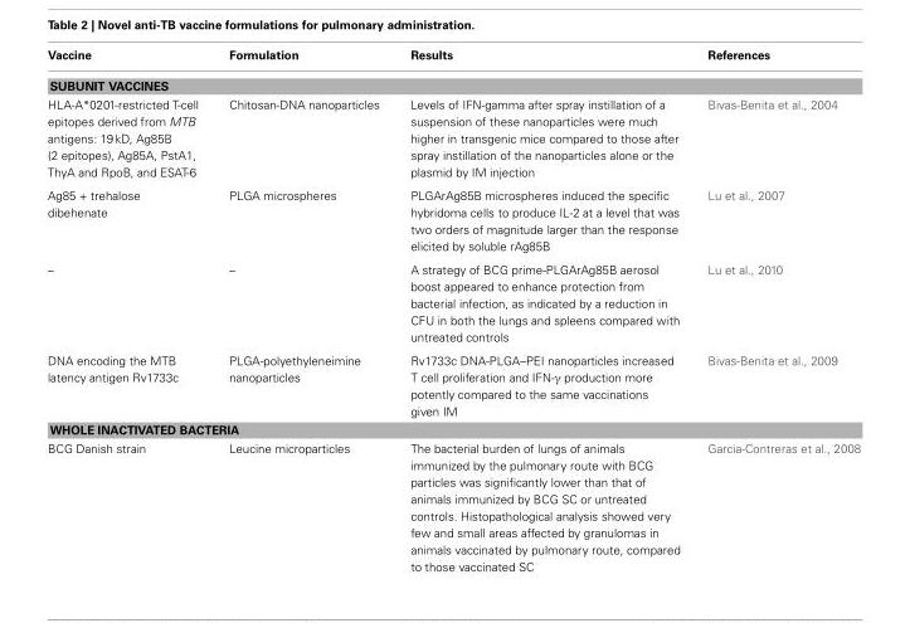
<table><thead><tr><td>Vaccine</td><td>Formulation</td><td>Results</td><td>References</td></tr></thead><tbody><tr><td colspan="4">SUBUNIT VACCINES</td></tr><tr><td>HLA-A*0201-restricted T-cell epitopes derived from MTB antigens: 19 kD, Ag85B (2 epitopes), Ag85A, PstA1, ThyA and RpoB, and ESAT-6</td><td>Chitosan-DNA nanoparticles</td><td>Levels of IFN-gamma after spray instillation of a suspension of these nanoparticles were much higher in transgenic mice compared to those after spray instillation of the nanoparticles alone or the plasmid by IM injection</td><td>Bivas-Benita et al., 2004</td></tr><tr><td>Ag85 + trehalose dibehenate</td><td>PLGA microspheres</td><td>PLGArAg85B microspheres induced the specific hybridoma cells to produce IL-2 at a level that was two orders of magnitude larger than the response elicited by soluble rAg85B</td><td>Lu et al., 2007</td></tr><tr><td>–</td><td>–</td><td>A strategy of BCG prime-PLGArAg85B aerosol boost appeared to enhance protection from bacterial infection, as indicated by a reduction in CFU in both the lungs and spleens compared with untreated controls</td><td>Lu et al., 2010</td></tr><tr><td>DNA encoding the MTB latency antigen Rv1733c</td><td>PLGA-polyethyleneimine nanoparticles</td><td>Rv1733c DNA-PLGA–PEI nanoparticles increased T cell proliferation and IFN-γ production more potently compared to the same vaccinations given IM</td><td>Bivas-Benita et al., 2009</td></tr><tr><td colspan="4">WHOLE INACTIVATED BACTERIA</td></tr><tr><td>BCG Danish strain</td><td>Leucine microparticles</td><td>The bacterial burden of lungs of animals immunized by the pulmonary route with BCG particles was significantly lower than that of animals immunized by BCG SC or untreated controls. Histopathological analysis showed very few and small areas affected by granulomas in animals vaccinated by pulmonary route, compared to those vaccinated SC</td><td>Garcia-Contreras et al., 2008</td></tr></tbody></table>